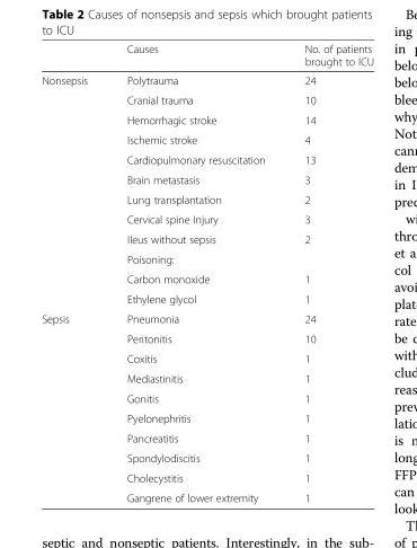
<table><thead><tr><td></td><td>Causes</td><td>No. of patients brought to ICU</td></tr></thead><tbody><tr><td rowspan="12">Nonsepsis</td><td>Polytrauma</td><td>24</td></tr><tr><td>Cranial trauma</td><td>10</td></tr><tr><td>Hemorrhagic stroke</td><td>14</td></tr><tr><td>Ischemic stroke</td><td>4</td></tr><tr><td>Cardiopulmonary resuscitation</td><td>13</td></tr><tr><td>Brain metastasis</td><td>3</td></tr><tr><td>Lung transplantation</td><td>2</td></tr><tr><td>Cervical spine Injury</td><td>3</td></tr><tr><td>Ileus without sepsis</td><td>2</td></tr><tr><td>Poisoning:</td><td></td></tr><tr><td>Carbon monoxide</td><td>1</td></tr><tr><td>Ethylene glycol</td><td>1</td></tr><tr><td rowspan="10">Sepsis</td><td>Pneumonia</td><td>24</td></tr><tr><td>Peritonitis</td><td>10</td></tr><tr><td>Coxitis</td><td>1</td></tr><tr><td>Mediastinitis</td><td>1</td></tr><tr><td>Gonitis</td><td>1</td></tr><tr><td>Pyelonephritis</td><td>1</td></tr><tr><td>Pancreatitis</td><td>1</td></tr><tr><td>Spondylodiscitis</td><td>1</td></tr><tr><td>Cholecystitis</td><td>1</td></tr><tr><td>Gangrene of lower extremity</td><td>1</td></tr></tbody></table>